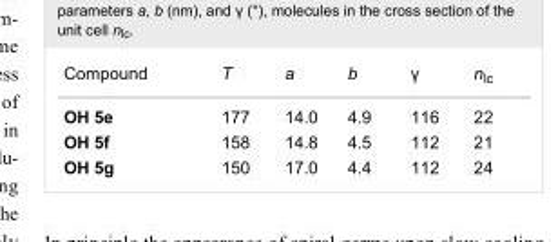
<table><tbody><tr><td>Compound</td><td>T</td><td>a</td><td>b</td><td>γ</td><td>n<sub>lc</sub></td></tr><tr><td>OH 5e</td><td>177</td><td>14.0</td><td>4.9</td><td>116</td><td>22</td></tr><tr><td>OH 5f</td><td>158</td><td>14.8</td><td>4.5</td><td>112</td><td>21</td></tr><tr><td>OH 5g</td><td>150</td><td>17.0</td><td>4.4</td><td>112</td><td>24</td></tr></tbody></table>